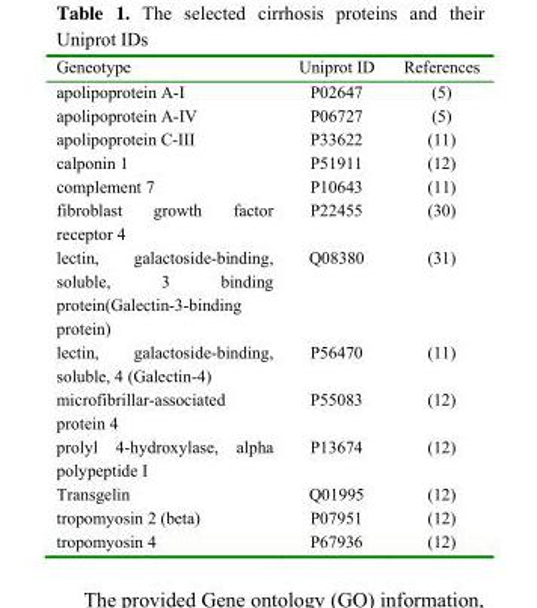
<table><thead><tr><td>Geneotype</td><td>Uniprot ID</td><td>References</td></tr></thead><tbody><tr><td>apolipoprotein A-I</td><td>P02647</td><td>(5)</td></tr><tr><td>apolipoprotein A-IV</td><td>P06727</td><td>(5)</td></tr><tr><td>apolipoprotein C-III</td><td>P33622</td><td>(11)</td></tr><tr><td>calponin 1</td><td>P51911</td><td>(12)</td></tr><tr><td>complement 7</td><td>P10643</td><td>(11)</td></tr><tr><td>fibroblast growth factor receptor 4</td><td>P22455</td><td>(30)</td></tr><tr><td>lectin, galactoside-binding, soluble, 3 binding protein(Galectin-3-binding protein)</td><td>Q08380</td><td>(31)</td></tr><tr><td>lectin, galactoside-binding, soluble, 4 (Galectin-4)</td><td>P56470</td><td>(11)</td></tr><tr><td>microfibrillar-associated protein 4</td><td>P55083</td><td>(12)</td></tr><tr><td>prolyl 4-hydroxylase, alpha polypeptide I</td><td>P13674</td><td>(12)</td></tr><tr><td>Transgelin</td><td>Q01995</td><td>(12)</td></tr><tr><td>tropomyosin 2 (beta)</td><td>P07951</td><td>(12)</td></tr><tr><td>tropomyosin 4</td><td>P67936</td><td>(12)</td></tr></tbody></table>